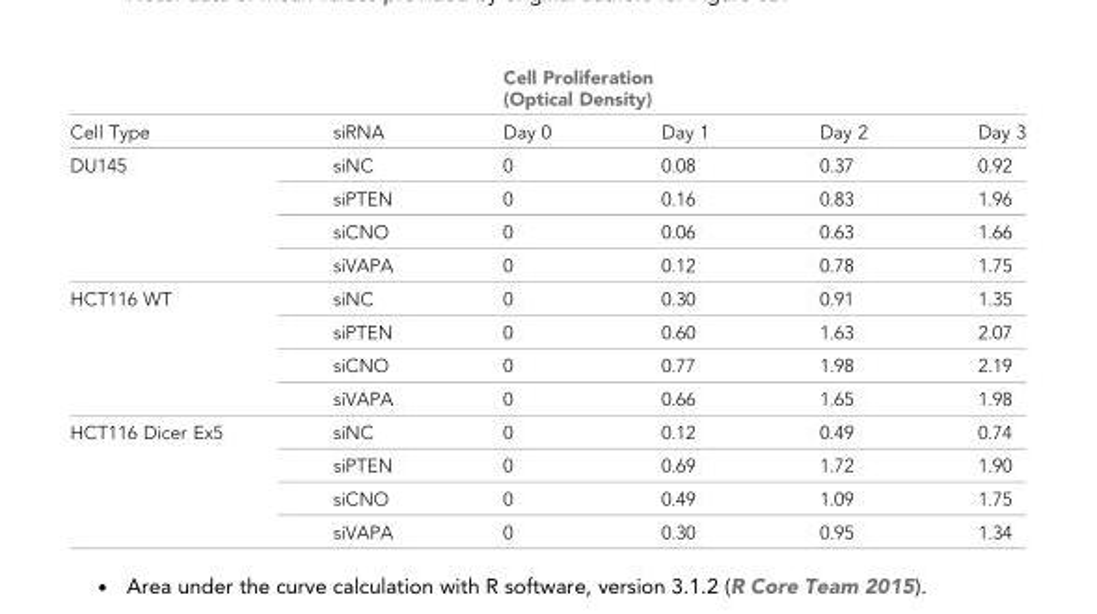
<table><thead><tr><td rowspan="2">Cell Type</td><td rowspan="2">siRNA</td><td colspan="4">Cell Proliferation (Optical Density)</td></tr><tr><td>Day 0</td><td>Day 1</td><td>Day 2</td><td>Day 3</td></tr></thead><tbody><tr><td rowspan="4">DU145</td><td>siNC</td><td>0</td><td>0.08</td><td>0.37</td><td>0.92</td></tr><tr><td>siPTEN</td><td>0</td><td>0.16</td><td>0.83</td><td>1.96</td></tr><tr><td>siCNO</td><td>0</td><td>0.06</td><td>0.63</td><td>1.66</td></tr><tr><td>siVAPA</td><td>0</td><td>0.12</td><td>0.78</td><td>1.75</td></tr><tr><td rowspan="4">HCT116 WT</td><td>siNC</td><td>0</td><td>0.30</td><td>0.91</td><td>1.35</td></tr><tr><td>siPTEN</td><td>0</td><td>0.60</td><td>1.63</td><td>2.07</td></tr><tr><td>siCNO</td><td>0</td><td>0.77</td><td>1.98</td><td>2.19</td></tr><tr><td>siVAPA</td><td>0</td><td>0.66</td><td>1.65</td><td>1.98</td></tr><tr><td rowspan="4">HCT116 Dicer Ex5</td><td>siNC</td><td>0</td><td>0.12</td><td>0.49</td><td>0.74</td></tr><tr><td>siPTEN</td><td>0</td><td>0.69</td><td>1.72</td><td>1.90</td></tr><tr><td>siCNO</td><td>0</td><td>0.49</td><td>1.09</td><td>1.75</td></tr><tr><td>siVAPA</td><td>0</td><td>0.30</td><td>0.95</td><td>1.34</td></tr></tbody></table>